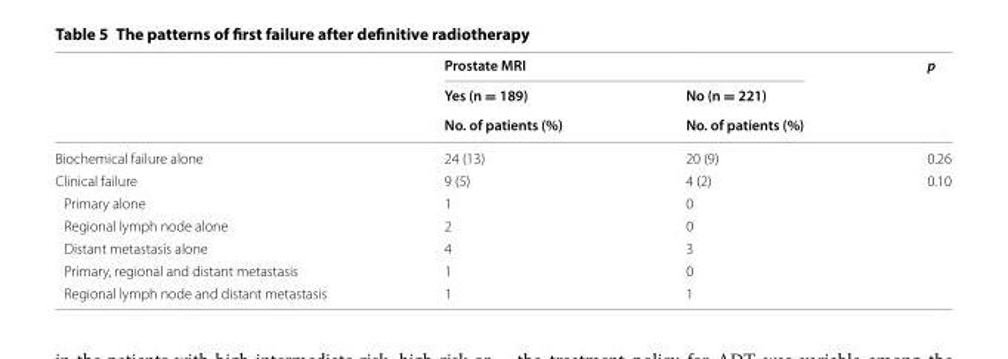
<table><thead><tr><td rowspan="3"></td><td colspan="2">Prostate MRI</td><td rowspan="3">p</td></tr><tr><td rowspan="2">Yes (n = 189) No. of patients (%)</td><td rowspan="2">No (n = 221) No. of patients (%)</td></tr><tr></tr></thead><tbody><tr><td>Biochemical failure alone</td><td>24 (13)</td><td>20 (9)</td><td>0.26</td></tr><tr><td>Clinical failure</td><td>9 (5)</td><td>4 (2)</td><td>0.10</td></tr><tr><td>Primary alone</td><td>1</td><td>0</td><td></td></tr><tr><td>Regional lymph node alone</td><td>2</td><td>0</td><td></td></tr><tr><td>Distant metastasis alone</td><td>4</td><td>3</td><td></td></tr><tr><td>Primary, regional and distant metastasis</td><td>1</td><td>0</td><td></td></tr><tr><td>Regional lymph node and distant metastasis</td><td>1</td><td>1</td><td></td></tr></tbody></table>